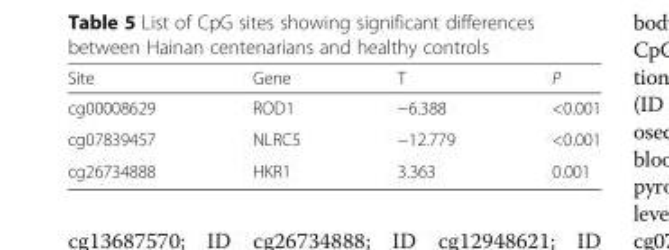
<table><thead><tr><td>Site</td><td>Gene</td><td>T</td><td>P</td></tr></thead><tbody><tr><td>cg00008629</td><td>ROD1</td><td>−6.388</td><td>&lt;0.001</td></tr><tr><td>cg07839457</td><td>NLRC5</td><td>−12.779</td><td>&lt;0.001</td></tr><tr><td>cg26734888</td><td>HKR1</td><td>3.363</td><td>0.001</td></tr></tbody></table>